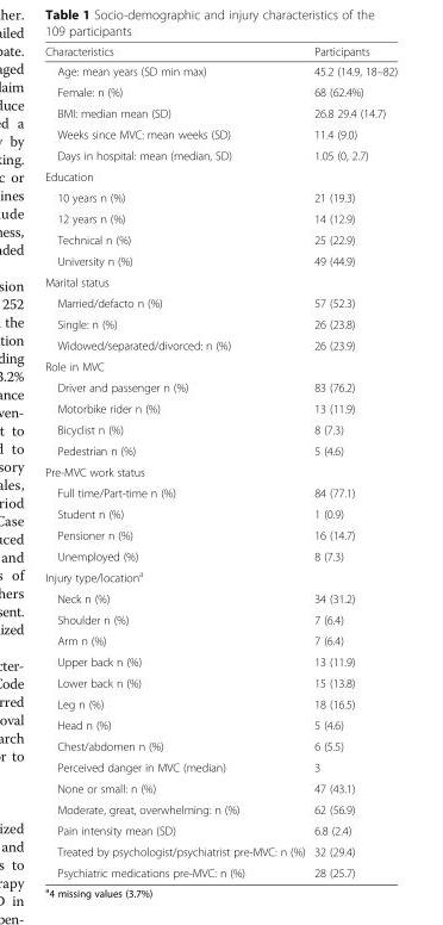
<table><thead><tr><td>Characteristics</td><td>Participants</td></tr></thead><tbody><tr><td>Age: mean years (SD min max)</td><td>45.2 (14.9, 18–82)</td></tr><tr><td>Female: n (%)</td><td>68 (62.4%)</td></tr><tr><td>BMI: median mean (SD)</td><td>26.8 29.4 (14.7)</td></tr><tr><td>Weeks since MVC: mean weeks (SD)</td><td>11.4 (9.0)</td></tr><tr><td>Days in hospital: mean (median, SD)</td><td>1.05 (0, 2.7)</td></tr><tr><td colspan="2">Education</td></tr><tr><td>10 years n (%)</td><td>21 (19.3)</td></tr><tr><td>12 years n (%)</td><td>14 (12.9)</td></tr><tr><td>Technical n (%)</td><td>25 (22.9)</td></tr><tr><td>University n (%)</td><td>49 (44.9)</td></tr><tr><td colspan="2">Marital status</td></tr><tr><td>Married/defacto n (%)</td><td>57 (52.3)</td></tr><tr><td>Single: n (%)</td><td>26 (23.8)</td></tr><tr><td>Widowed/separated/divorced: n (%)</td><td>26 (23.9)</td></tr><tr><td colspan="2">Role in MVC</td></tr><tr><td>Driver and passenger n (%)</td><td>83 (76.2)</td></tr><tr><td>Motorbike rider n (%)</td><td>13 (11.9)</td></tr><tr><td>Bicyclist n (%)</td><td>8 (7.3)</td></tr><tr><td>Pedestrian n (%)</td><td>5 (4.6)</td></tr><tr><td colspan="2">Pre-MVC work status</td></tr><tr><td>Full time/Part-time n (%)</td><td>84 (77.1)</td></tr><tr><td>Student n (%)</td><td>1 (0.9)</td></tr><tr><td>Pensioner n (%)</td><td>16 (14.7)</td></tr><tr><td>Unemployed (%)</td><td>8 (7.3)</td></tr><tr><td colspan="2">Injury type/location<sup>a</sup></td></tr><tr><td>Neck n (%)</td><td>34 (31.2)</td></tr><tr><td>Shoulder n (%)</td><td>7 (6.4)</td></tr><tr><td>Arm n (%)</td><td>7 (6.4)</td></tr><tr><td>Upper back n (%)</td><td>13 (11.9)</td></tr><tr><td>Lower back n (%)</td><td>15 (13.8)</td></tr><tr><td>Leg n (%)</td><td>18 (16.5)</td></tr><tr><td>Head n (%)</td><td>5 (4.6)</td></tr><tr><td>Chest/abdomen n (%)</td><td>6 (5.5)</td></tr><tr><td>Perceived danger in MVC (median)</td><td>3</td></tr><tr><td>None or small: n (%)</td><td>47 (43.1)</td></tr><tr><td>Moderate, great, overwhelming: n (%)</td><td>62 (56.9)</td></tr><tr><td>Pain intensity mean (SD)</td><td>6.8 (2.4)</td></tr><tr><td>Treated by psychologist/psychiatrist pre-MVC: n (%)</td><td>32 (29.4)</td></tr><tr><td>Psychiatric medications pre-MVC: n (%)</td><td>28 (25.7)</td></tr></tbody></table>